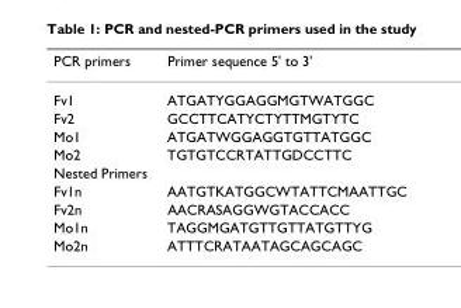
<table><thead><tr><td>PCR primers</td><td>Primer sequence 5&#x27; to 3&#x27;</td></tr></thead><tbody><tr><td>Fv1</td><td>ATGATYGGAGGMGTWATGGC</td></tr><tr><td>Fv2</td><td>GCCTTCATYCTYTTMGTYTC</td></tr><tr><td>Mo1</td><td>ATGATWGGAGGTGTTATGGC</td></tr><tr><td>Mo2</td><td>TGTGTCCRTATTGDCCTTC</td></tr><tr><td colspan="2">Nested Primers</td></tr><tr><td>Fv1n</td><td>AATGTKATGGCWTATTCMAATTGC</td></tr><tr><td>Fv2n</td><td>AACRASAGGWGTACCACC</td></tr><tr><td>Mo1n</td><td>TAGGMGATGTTGTTATGTTYG</td></tr><tr><td>Mo2n</td><td>ATTTCRATAATAGCAGCAGC</td></tr></tbody></table>